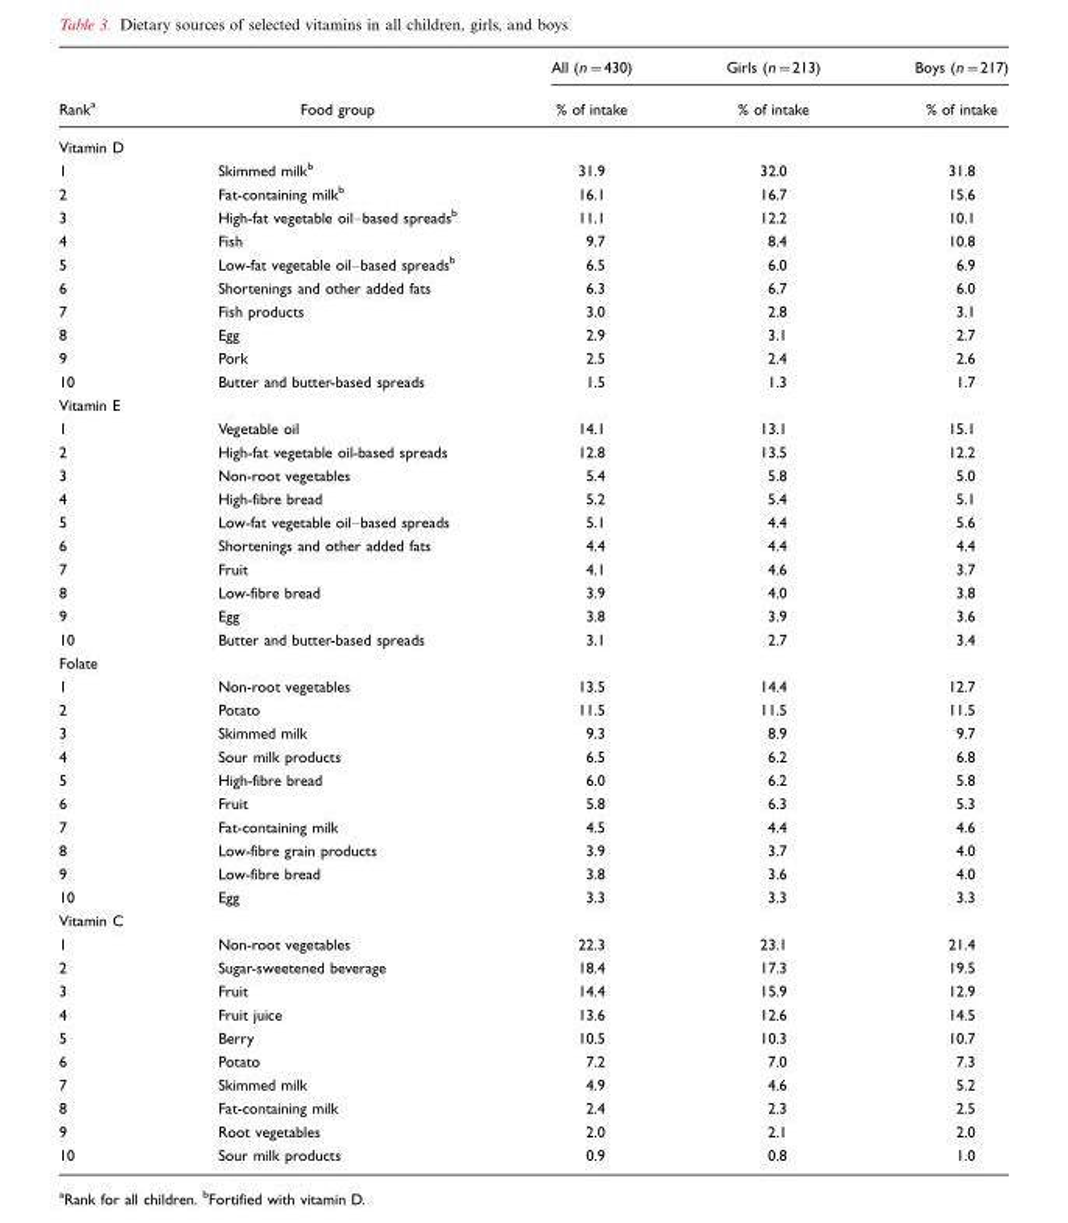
<table><thead><tr><td rowspan="2">Rank<sup>a</sup></td><td rowspan="2">Food group</td><td rowspan="2">All (n=430) % of intake</td><td rowspan="2">Girls (n=213) % of intake</td><td rowspan="2">Boys (n=217) % of intake</td></tr><tr></tr></thead><tbody><tr><td colspan="5">Vitamin D</td></tr><tr><td>1</td><td>Skimmed milk<sup>b</sup></td><td>31.9</td><td>32.0</td><td>31.8</td></tr><tr><td>2</td><td>Fat-containing milk<sup>b</sup></td><td>16.1</td><td>16.7</td><td>15.6</td></tr><tr><td>3</td><td>High-fat vegetable oil–based spreads<sup>b</sup></td><td>11.1</td><td>12.2</td><td>10.1</td></tr><tr><td>4</td><td>Fish</td><td>9.7</td><td>8.4</td><td>10.8</td></tr><tr><td>5</td><td>Low-fat vegetable oil–based spreads<sup>b</sup></td><td>6.5</td><td>6.0</td><td>6.9</td></tr><tr><td>6</td><td>Shortenings and other added fats</td><td>6.3</td><td>6.7</td><td>6.0</td></tr><tr><td>7</td><td>Fish products</td><td>3.0</td><td>2.8</td><td>3.1</td></tr><tr><td>8</td><td>Egg</td><td>2.9</td><td>3.1</td><td>2.7</td></tr><tr><td>9</td><td>Pork</td><td>2.5</td><td>2.4</td><td>2.6</td></tr><tr><td>10</td><td>Butter and butter-based spreads</td><td>1.5</td><td>1.3</td><td>1.7</td></tr><tr><td colspan="5">Vitamin E</td></tr><tr><td>1</td><td>Vegetable oil</td><td>14.1</td><td>13.1</td><td>15.1</td></tr><tr><td>2</td><td>High-fat vegetable oil-based spreads</td><td>12.8</td><td>13.5</td><td>12.2</td></tr><tr><td>3</td><td>Non-root vegetables</td><td>5.4</td><td>5.8</td><td>5.0</td></tr><tr><td>4</td><td>High-fibre bread</td><td>5.2</td><td>5.4</td><td>5.1</td></tr><tr><td>5</td><td>Low-fat vegetable oil–based spreads</td><td>5.1</td><td>4.4</td><td>5.6</td></tr><tr><td>6</td><td>Shortenings and other added fats</td><td>4.4</td><td>4.4</td><td>4.4</td></tr><tr><td>7</td><td>Fruit</td><td>4.1</td><td>4.6</td><td>3.7</td></tr><tr><td>8</td><td>Low-fibre bread</td><td>3.9</td><td>4.0</td><td>3.8</td></tr><tr><td>9</td><td>Egg</td><td>3.8</td><td>3.9</td><td>3.6</td></tr><tr><td>10</td><td>Butter and butter-based spreads</td><td>3.1</td><td>2.7</td><td>3.4</td></tr><tr><td colspan="5">Folate</td></tr><tr><td>1</td><td>Non-root vegetables</td><td>13.5</td><td>14.4</td><td>12.7</td></tr><tr><td>2</td><td>Potato</td><td>11.5</td><td>11.5</td><td>11.5</td></tr><tr><td>3</td><td>Skimmed milk</td><td>9.3</td><td>8.9</td><td>9.7</td></tr><tr><td>4</td><td>Sour milk products</td><td>6.5</td><td>6.2</td><td>6.8</td></tr><tr><td>5</td><td>High-fibre bread</td><td>6.0</td><td>6.2</td><td>5.8</td></tr><tr><td>6</td><td>Fruit</td><td>5.8</td><td>6.3</td><td>5.3</td></tr><tr><td>7</td><td>Fat-containing milk</td><td>4.5</td><td>4.4</td><td>4.6</td></tr><tr><td>8</td><td>Low-fibre grain products</td><td>3.9</td><td>3.7</td><td>4.0</td></tr><tr><td>9</td><td>Low-fibre bread</td><td>3.8</td><td>3.6</td><td>4.0</td></tr><tr><td>10</td><td>Egg</td><td>3.3</td><td>3.3</td><td>3.3</td></tr><tr><td colspan="5">Vitamin C</td></tr><tr><td>1</td><td>Non-root vegetables</td><td>22.3</td><td>23.1</td><td>21.4</td></tr><tr><td>2</td><td>Sugar-sweetened beverage</td><td>18.4</td><td>17.3</td><td>19.5</td></tr><tr><td>3</td><td>Fruit</td><td>14.4</td><td>15.9</td><td>12.9</td></tr><tr><td>4</td><td>Fruit juice</td><td>13.6</td><td>12.6</td><td>14.5</td></tr><tr><td>5</td><td>Berry</td><td>10.5</td><td>10.3</td><td>10.7</td></tr><tr><td>6</td><td>Potato</td><td>7.2</td><td>7.0</td><td>7.3</td></tr><tr><td>7</td><td>Skimmed milk</td><td>4.9</td><td>4.6</td><td>5.2</td></tr><tr><td>8</td><td>Fat-containing milk</td><td>2.4</td><td>2.3</td><td>2.5</td></tr><tr><td>9</td><td>Root vegetables</td><td>2.0</td><td>2.1</td><td>2.0</td></tr><tr><td>10</td><td>Sour milk products</td><td>0.9</td><td>0.8</td><td>1.0</td></tr></tbody></table>